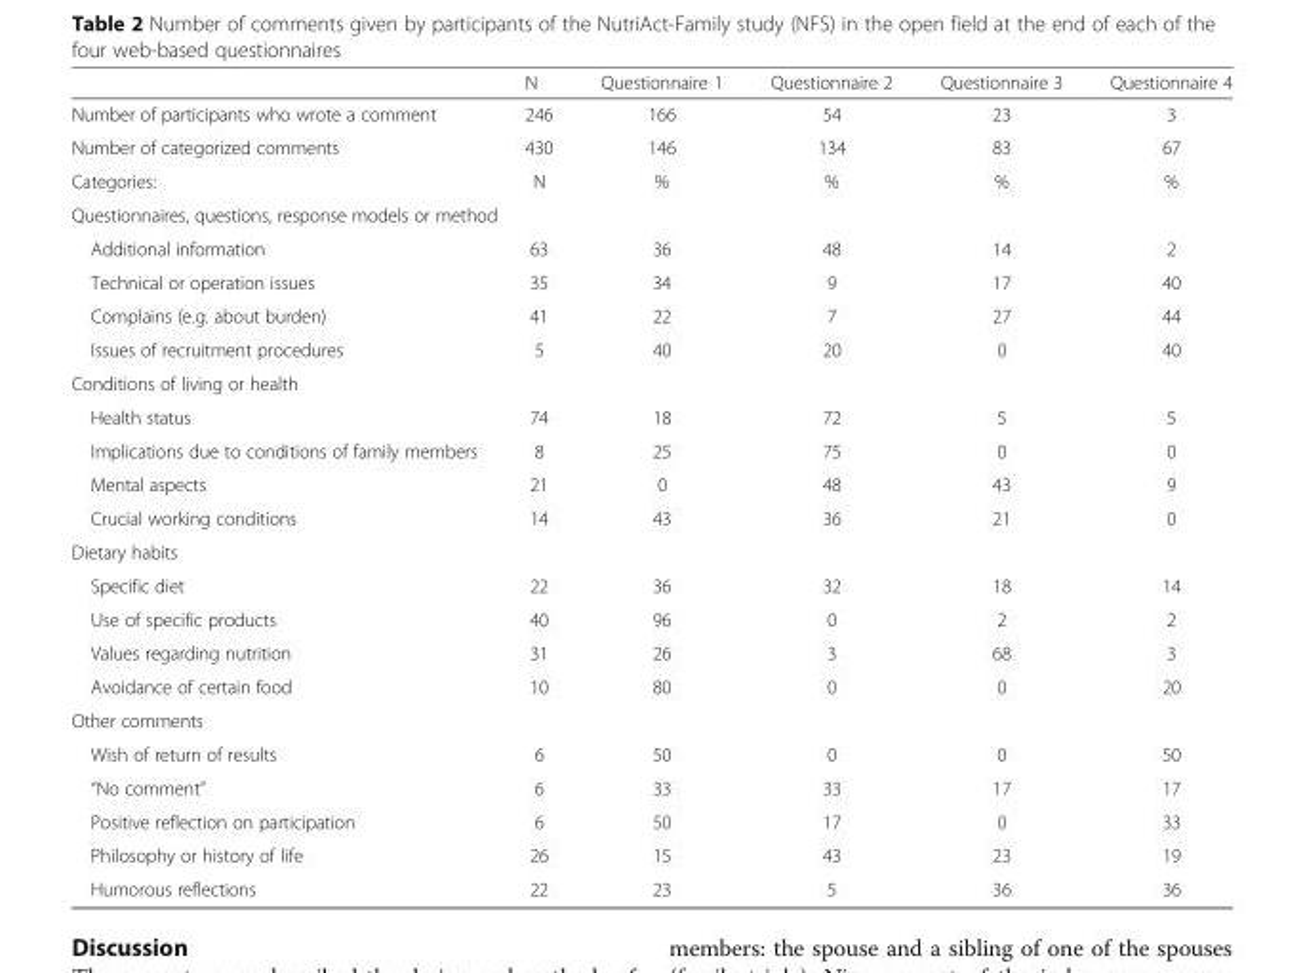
<table><thead><tr><td></td><td>N</td><td>Questionnaire 1</td><td>Questionnaire 2</td><td>Questionnaire 3</td><td>Questionnaire 4</td></tr></thead><tbody><tr><td>Number of participants who wrote a comment</td><td>246</td><td>166</td><td>54</td><td>23</td><td>3</td></tr><tr><td>Number of categorized comments</td><td>430</td><td>146</td><td>134</td><td>83</td><td>67</td></tr><tr><td>Categories:</td><td>N</td><td>%</td><td>%</td><td>%</td><td>%</td></tr><tr><td colspan="6">Questionnaires, questions, response models or method</td></tr><tr><td>Additional information</td><td>63</td><td>36</td><td>48</td><td>14</td><td>2</td></tr><tr><td>Technical or operation issues</td><td>35</td><td>34</td><td>9</td><td>17</td><td>40</td></tr><tr><td>Complains (e.g. about burden)</td><td>41</td><td>22</td><td>7</td><td>27</td><td>44</td></tr><tr><td>Issues of recruitment procedures</td><td>5</td><td>40</td><td>20</td><td>0</td><td>40</td></tr><tr><td colspan="6">Conditions of living or health</td></tr><tr><td>Health status</td><td>74</td><td>18</td><td>72</td><td>5</td><td>5</td></tr><tr><td>Implications due to conditions of family members</td><td>8</td><td>25</td><td>75</td><td>0</td><td>0</td></tr><tr><td>Mental aspects</td><td>21</td><td>0</td><td>48</td><td>43</td><td>9</td></tr><tr><td>Crucial working conditions</td><td>14</td><td>43</td><td>36</td><td>21</td><td>0</td></tr><tr><td colspan="6">Dietary habits</td></tr><tr><td>Specific diet</td><td>22</td><td>36</td><td>32</td><td>18</td><td>14</td></tr><tr><td>Use of specific products</td><td>40</td><td>96</td><td>0</td><td>2</td><td>2</td></tr><tr><td>Values regarding nutrition</td><td>31</td><td>26</td><td>3</td><td>68</td><td>3</td></tr><tr><td>Avoidance of certain food</td><td>10</td><td>80</td><td>0</td><td>0</td><td>20</td></tr><tr><td colspan="6">Other comments</td></tr><tr><td>Wish of return of results</td><td>6</td><td>50</td><td>0</td><td>0</td><td>50</td></tr><tr><td>“No comment”</td><td>6</td><td>33</td><td>33</td><td>17</td><td>17</td></tr><tr><td>Positive reflection on participation</td><td>6</td><td>50</td><td>17</td><td>0</td><td>33</td></tr><tr><td>Philosophy or history of life</td><td>26</td><td>15</td><td>43</td><td>23</td><td>19</td></tr><tr><td>Humorous reflections</td><td>22</td><td>23</td><td>5</td><td>36</td><td>36</td></tr></tbody></table>